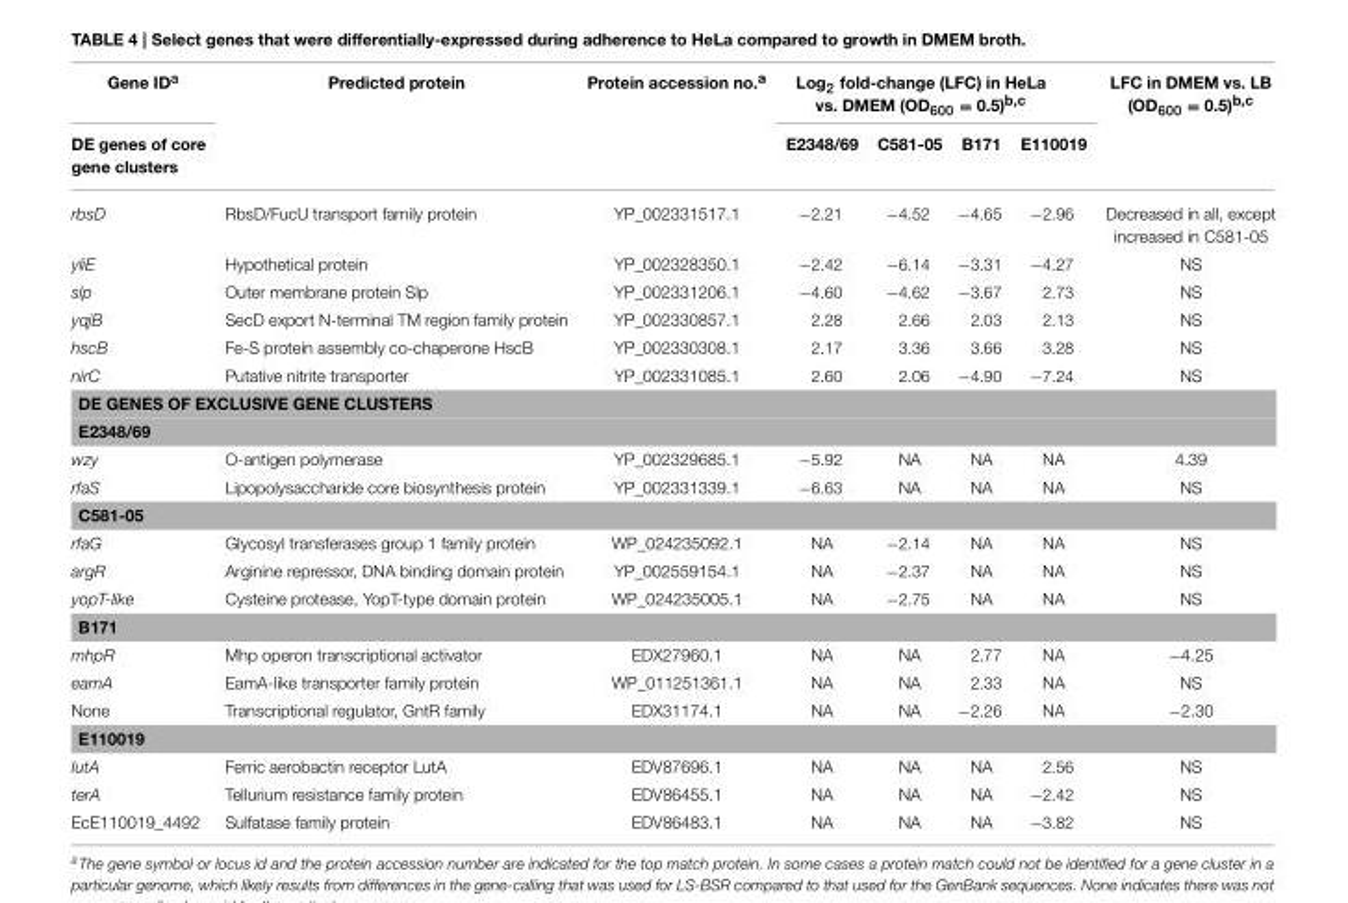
<table><thead><tr><td rowspan="2">Gene ID<sup>a</sup> DE genes of core gene clusters</td><td rowspan="2">Predicted protein</td><td rowspan="2">Protein accession no.<sup>a</sup></td><td colspan="4">Log<sub>2</sub> fold-change (LFC) in HeLa vs. DMEM (OD<sub>600</sub> = 0.5)<sup>b,c</sup></td><td rowspan="2">LFC in DMEM vs. LB (OD<sub>600</sub> = 0.5)<sup>b,c</sup></td></tr><tr><td>E2348/69</td><td>C581-05</td><td>B171</td><td>E110019</td></tr></thead><tbody><tr><td>rbsD</td><td>RbsD/FucU transport family protein</td><td>YP_002331517.1</td><td>−2.21</td><td>−4.52</td><td>−4.65</td><td>−2.96</td><td>Decreased in all, except increased in C581-05</td></tr><tr><td>yliE</td><td>Hypothetical protein</td><td>YP_002328350.1</td><td>−2.42</td><td>−6.14</td><td>−3.31</td><td>−4.27</td><td>NS</td></tr><tr><td>slp</td><td>Outer membrane protein Slp</td><td>YP_002331206.1</td><td>−4.60</td><td>−4.62</td><td>−3.67</td><td>2.73</td><td>NS</td></tr><tr><td>yqjB</td><td>SecD export N-terminal TM region family protein</td><td>YP_002330857.1</td><td>2.28</td><td>2.66</td><td>2.03</td><td>2.13</td><td>NS</td></tr><tr><td>hscB</td><td>Fe-S protein assembly co-chaperone HscB</td><td>YP_002330308.1</td><td>2.17</td><td>3.36</td><td>3.66</td><td>3.28</td><td>NS</td></tr><tr><td>nirC</td><td>Putative nitrite transporter</td><td>YP_002331085.1</td><td>2.60</td><td>2.06</td><td>−4.90</td><td>−7.24</td><td>NS</td></tr><tr><td colspan="8">DE GENES OF EXCLUSIVE GENE CLUSTERS</td></tr><tr><td colspan="8">E2348/69</td></tr><tr><td>wzy</td><td>O-antigen polymerase</td><td>YP_002329685.1</td><td>−5.92</td><td>NA</td><td>NA</td><td>NA</td><td>4.39</td></tr><tr><td>rfaS</td><td>Lipopolysaccharide core biosynthesis protein</td><td>YP_002331339.1</td><td>−6.63</td><td>NA</td><td>NA</td><td>NA</td><td>NS</td></tr><tr><td colspan="8">C581-05</td></tr><tr><td>rfaG</td><td>Glycosyl transferases group 1 family protein</td><td>WP_024235092.1</td><td>NA</td><td>−2.14</td><td>NA</td><td>NA</td><td>NS</td></tr><tr><td>argR</td><td>Arginine repressor, DNA binding domain protein</td><td>YP_002559154.1</td><td>NA</td><td>−2.37</td><td>NA</td><td>NA</td><td>NS</td></tr><tr><td>yopT-like</td><td>Cysteine protease, YopT-type domain protein</td><td>WP_024235005.1</td><td>NA</td><td>−2.75</td><td>NA</td><td>NA</td><td>NS</td></tr><tr><td colspan="8">B171</td></tr><tr><td>mhpR</td><td>Mhp operon transcriptional activator</td><td>EDX27960.1</td><td>NA</td><td>NA</td><td>2.77</td><td>NA</td><td>−4.25</td></tr><tr><td>eamA</td><td>EamA-like transporter family protein</td><td>WP_011251361.1</td><td>NA</td><td>NA</td><td>2.33</td><td>NA</td><td>NS</td></tr><tr><td>None</td><td>Transcriptional regulator, GntR family</td><td>EDX31174.1</td><td>NA</td><td>NA</td><td>−2.26</td><td>NA</td><td>−2.30</td></tr><tr><td colspan="8">E110019</td></tr><tr><td>IutA</td><td>Ferric aerobactin receptor LutA</td><td>EDV87696.1</td><td>NA</td><td>NA</td><td>NA</td><td>2.56</td><td>NS</td></tr><tr><td>terA</td><td>Tellurium resistance family protein</td><td>EDV86455.1</td><td>NA</td><td>NA</td><td>NA</td><td>−2.42</td><td>NS</td></tr><tr><td>EcE110019_4492</td><td>Sulfatase family protein</td><td>EDV86483.1</td><td>NA</td><td>NA</td><td>NA</td><td>−3.82</td><td>NS</td></tr></tbody></table>